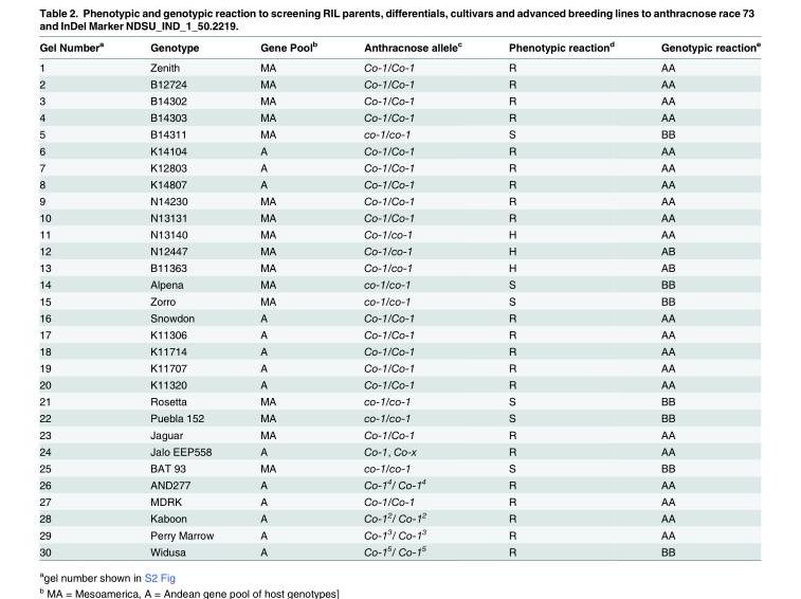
<table><thead><tr><td>Gel Number<sup>a</sup></td><td>Genotype</td><td>Gene Pool<sup>b</sup></td><td>Anthracnose allele<sup>c</sup></td><td>Phenotypic reaction<sup>d</sup></td><td>Genotypic reaction<sup>e</sup></td></tr></thead><tbody><tr><td>1</td><td>Zenith</td><td>MA</td><td>Co-1/Co-1</td><td>R</td><td>AA</td></tr><tr><td>2</td><td>B12724</td><td>MA</td><td>Co-1/Co-1</td><td>R</td><td>AA</td></tr><tr><td>3</td><td>B14302</td><td>MA</td><td>Co-1/Co-1</td><td>R</td><td>AA</td></tr><tr><td>4</td><td>B14303</td><td>MA</td><td>Co-1/Co-1</td><td>R</td><td>AA</td></tr><tr><td>5</td><td>B14311</td><td>MA</td><td>co-1/co-1</td><td>S</td><td>BB</td></tr><tr><td>6</td><td>K14104</td><td>A</td><td>Co-1/Co-1</td><td>R</td><td>AA</td></tr><tr><td>7</td><td>K12803</td><td>A</td><td>Co-1/Co-1</td><td>R</td><td>AA</td></tr><tr><td>8</td><td>K14807</td><td>A</td><td>Co-1/Co-1</td><td>R</td><td>AA</td></tr><tr><td>9</td><td>N14230</td><td>MA</td><td>Co-1/Co-1</td><td>R</td><td>AA</td></tr><tr><td>10</td><td>N13131</td><td>MA</td><td>Co-1/Co-1</td><td>R</td><td>AA</td></tr><tr><td>11</td><td>N13140</td><td>MA</td><td>Co-1/co-1</td><td>H</td><td>AA</td></tr><tr><td>12</td><td>N12447</td><td>MA</td><td>Co-1/co-1</td><td>H</td><td>AB</td></tr><tr><td>13</td><td>B11363</td><td>MA</td><td>Co-1/co-1</td><td>H</td><td>AB</td></tr><tr><td>14</td><td>Alpena</td><td>MA</td><td>co-1/co-1</td><td>S</td><td>BB</td></tr><tr><td>15</td><td>Zorro</td><td>MA</td><td>co-1/co-1</td><td>S</td><td>BB</td></tr><tr><td>16</td><td>Snowdon</td><td>A</td><td>Co-1/Co-1</td><td>R</td><td>AA</td></tr><tr><td>17</td><td>K11306</td><td>A</td><td>Co-1/Co-1</td><td>R</td><td>AA</td></tr><tr><td>18</td><td>K11714</td><td>A</td><td>Co-1/Co-1</td><td>R</td><td>AA</td></tr><tr><td>19</td><td>K11707</td><td>A</td><td>Co-1/Co-1</td><td>R</td><td>AA</td></tr><tr><td>20</td><td>K11320</td><td>A</td><td>Co-1/Co-1</td><td>R</td><td>AA</td></tr><tr><td>21</td><td>Rosetta</td><td>MA</td><td>co-1/co-1</td><td>S</td><td>BB</td></tr><tr><td>22</td><td>Puebla 152</td><td>MA</td><td>co-1/co-1</td><td>S</td><td>BB</td></tr><tr><td>23</td><td>Jaguar</td><td>MA</td><td>Co-1/Co-1</td><td>R</td><td>AA</td></tr><tr><td>24</td><td>Jalo EEP558</td><td>A</td><td>Co-1, Co-x</td><td>R</td><td>AA</td></tr><tr><td>25</td><td>BAT 93</td><td>MA</td><td>co-1/co-1</td><td>S</td><td>BB</td></tr><tr><td>26</td><td>AND277</td><td>A</td><td>Co-1<sup>4</sup>/ Co-1<sup>4</sup></td><td>R</td><td>AA</td></tr><tr><td>27</td><td>MDRK</td><td>A</td><td>Co-1/Co-1</td><td>R</td><td>AA</td></tr><tr><td>28</td><td>Kaboon</td><td>A</td><td>Co-1<sup>2</sup>/ Co-1<sup>2</sup></td><td>R</td><td>AA</td></tr><tr><td>29</td><td>Perry Marrow</td><td>A</td><td>Co-1<sup>3</sup>/ Co-1<sup>3</sup></td><td>R</td><td>AA</td></tr><tr><td>30</td><td>Widusa</td><td>A</td><td>Co-1<sup>5</sup>/ Co-1<sup>5</sup></td><td>R</td><td>BB</td></tr></tbody></table>